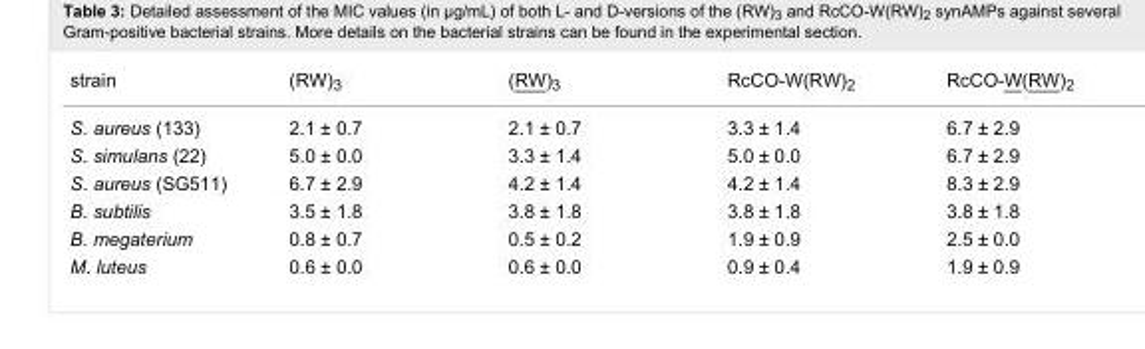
<table><tbody><tr><td>strain</td><td>(RW)<sub>3</sub></td><td>(RW)<sub>3</sub></td><td>RcCO-W(RW)<sub>2</sub></td><td>RcCO-W(RW)<sub>2</sub></td></tr><tr><td>S. aureus (133)</td><td>2.1 ± 0.7</td><td>2.1 ± 0.7</td><td>3.3 ± 1.4</td><td>6.7 ± 2.9</td></tr><tr><td>S. simulans (22)</td><td>5.0 ± 0.0</td><td>3.3 ± 1.4</td><td>5.0 ± 0.0</td><td>6.7 ± 2.9</td></tr><tr><td>S. aureus (SG511)</td><td>6.7 ± 2.9</td><td>4.2 ± 1.4</td><td>4.2 ± 1.4</td><td>8.3 ± 2.9</td></tr><tr><td>B. subtilis</td><td>3.5 ± 1.8</td><td>3.8 ± 1.8</td><td>3.8 ± 1.8</td><td>3.8 ± 1.8</td></tr><tr><td>B. megaterium</td><td>0.8 ± 0.7</td><td>0.5 ± 0.2</td><td>1.9 ± 0.9</td><td>2.5 ± 0.0</td></tr><tr><td>M. luteus</td><td>0.6 ± 0.0</td><td>0.6 ± 0.0</td><td>0.9 ± 0.4</td><td>1.9 ± 0.9</td></tr></tbody></table>